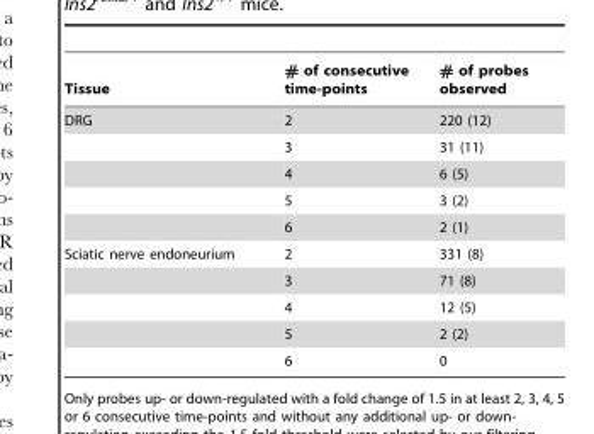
<table><thead><tr><td>Tissue</td><td># of consecutive time-points</td><td># of probes observed</td></tr></thead><tbody><tr><td rowspan="5">DRG</td><td>2</td><td>220 (12)</td></tr><tr><td>3</td><td>31 (11)</td></tr><tr><td>4</td><td>6 (5)</td></tr><tr><td>5</td><td>3 (2)</td></tr><tr><td>6</td><td>2 (1)</td></tr><tr><td rowspan="5">Sciatic nerve endoneurium</td><td>2</td><td>331 (8)</td></tr><tr><td>3</td><td>71 (8)</td></tr><tr><td>4</td><td>12 (5)</td></tr><tr><td>5</td><td>2 (2)</td></tr><tr><td>6</td><td>0</td></tr></tbody></table>